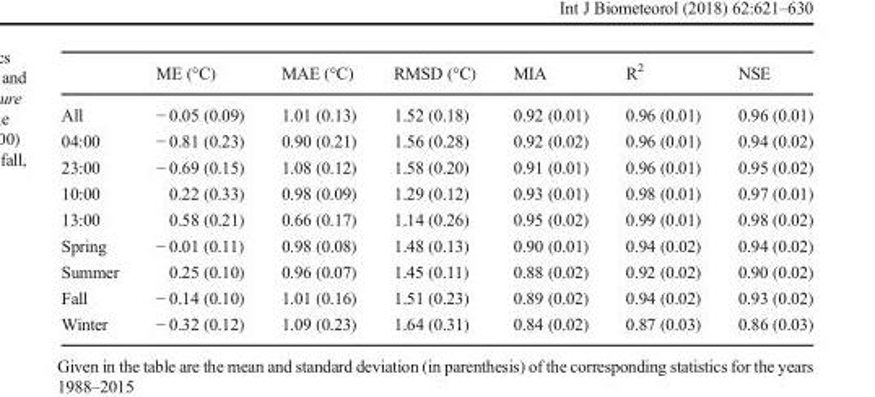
<table><thead><tr><td></td><td>ME (°C)</td><td>MAE (°C)</td><td>RMSD (°C)</td><td>MIA</td><td>R<sup>2</sup></td><td>NSE</td></tr></thead><tbody><tr><td>All</td><td>− 0.05 (0.09)</td><td>1.01 (0.13)</td><td>1.52 (0.18)</td><td>0.92 (0.01)</td><td>0.96 (0.01)</td><td>0.96 (0.01)</td></tr><tr><td>04:00</td><td>− 0.81 (0.23)</td><td>0.90 (0.21)</td><td>1.56 (0.28)</td><td>0.92 (0.02)</td><td>0.96 (0.01)</td><td>0.94 (0.02)</td></tr><tr><td>23:00</td><td>− 0.69 (0.15)</td><td>1.08 (0.12)</td><td>1.58 (0.20)</td><td>0.91 (0.01)</td><td>0.96 (0.01)</td><td>0.95 (0.02)</td></tr><tr><td>10:00</td><td>0.22 (0.33)</td><td>0.98 (0.09)</td><td>1.29 (0.12)</td><td>0.93 (0.01)</td><td>0.98 (0.01)</td><td>0.97 (0.01)</td></tr><tr><td>13:00</td><td>0.58 (0.21)</td><td>0.66 (0.17)</td><td>1.14 (0.26)</td><td>0.95 (0.02)</td><td>0.99 (0.01)</td><td>0.98 (0.02)</td></tr><tr><td>Spring</td><td>− 0.01 (0.11)</td><td>0.98 (0.08)</td><td>1.48 (0.13)</td><td>0.90 (0.01)</td><td>0.94 (0.02)</td><td>0.94 (0.02)</td></tr><tr><td>Summer</td><td>0.25 (0.10)</td><td>0.96 (0.07)</td><td>1.45 (0.11)</td><td>0.88 (0.02)</td><td>0.92 (0.02)</td><td>0.90 (0.02)</td></tr><tr><td>Fall</td><td>− 0.14 (0.10)</td><td>1.01 (0.16)</td><td>1.51 (0.23)</td><td>0.89 (0.02)</td><td>0.94 (0.02)</td><td>0.93 (0.02)</td></tr><tr><td>Winter</td><td>− 0.32 (0.12)</td><td>1.09 (0.23)</td><td>1.64 (0.31)</td><td>0.84 (0.02)</td><td>0.87 (0.03)</td><td>0.86 (0.03)</td></tr></tbody></table>